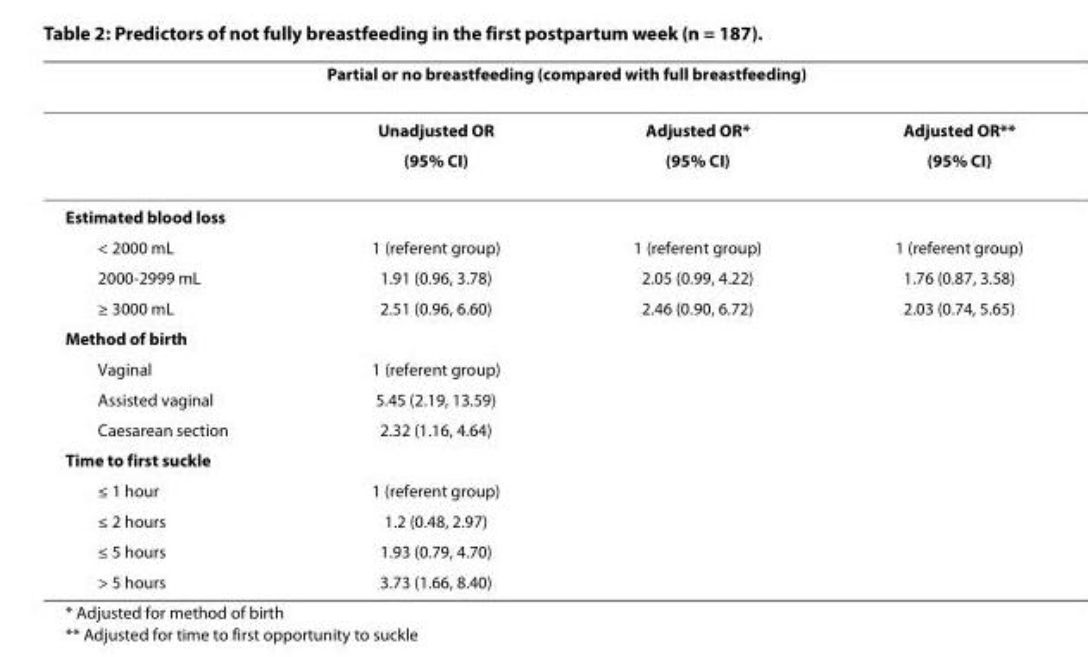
<table><thead><tr><td rowspan="2"></td><td colspan="3">Partial or no breastfeeding (compared with full breastfeeding)</td></tr><tr><td>Unadjusted OR</td><td>Adjusted OR*</td><td>Adjusted OR**</td></tr></thead><tbody><tr><td></td><td>(95% CI)</td><td>(95% CI)</td><td>(95% CI)</td></tr><tr><td colspan="4">Estimated blood loss</td></tr><tr><td>&lt; 2000 mL</td><td>1 (referent group)</td><td>1 (referent group)</td><td>1 (referent group)</td></tr><tr><td>2000-2999 mL</td><td>1.91 (0.96, 3.78)</td><td>2.05 (0.99, 4.22)</td><td>1.76 (0.87, 3.58)</td></tr><tr><td>≥ 3000 mL</td><td>2.51 (0.96, 6.60)</td><td>2.46 (0.90, 6.72)</td><td>2.03 (0.74, 5.65)</td></tr><tr><td colspan="4">Method of birth</td></tr><tr><td>Vaginal</td><td>1 (referent group)</td><td></td><td></td></tr><tr><td>Assisted vaginal</td><td>5.45 (2.19, 13.59)</td><td></td><td></td></tr><tr><td>Caesarean section</td><td>2.32 (1.16, 4.64)</td><td></td><td></td></tr><tr><td colspan="4">Time to first suckle</td></tr><tr><td>≤ 1 hour</td><td>1 (referent group)</td><td></td><td></td></tr><tr><td>≤ 2 hours</td><td>1.2 (0.48, 2.97)</td><td></td><td></td></tr><tr><td>≤ 5 hours</td><td>1.93 (0.79, 4.70)</td><td></td><td></td></tr><tr><td>&gt; 5 hours</td><td>3.73 (1.66, 8.40)</td><td></td><td></td></tr></tbody></table>